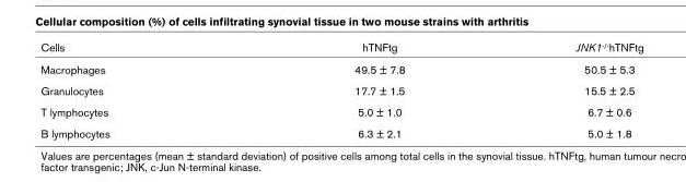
<table><thead><tr><td>Cells</td><td>hTNFtg</td><td>JNK1-/-hTNFtg</td></tr></thead><tbody><tr><td>Macrophages</td><td>49.5 ± 7.8</td><td>50.5 ± 5.3</td></tr><tr><td>Granulocytes</td><td>17.7 ± 1.5</td><td>15.5 ± 2.5</td></tr><tr><td>T lymphocytes</td><td>5.0 ± 1.0</td><td>6.7 ± 0.6</td></tr><tr><td>B lymphocytes</td><td>6.3 ± 2.1</td><td>5.0 ± 1.8</td></tr></tbody></table>